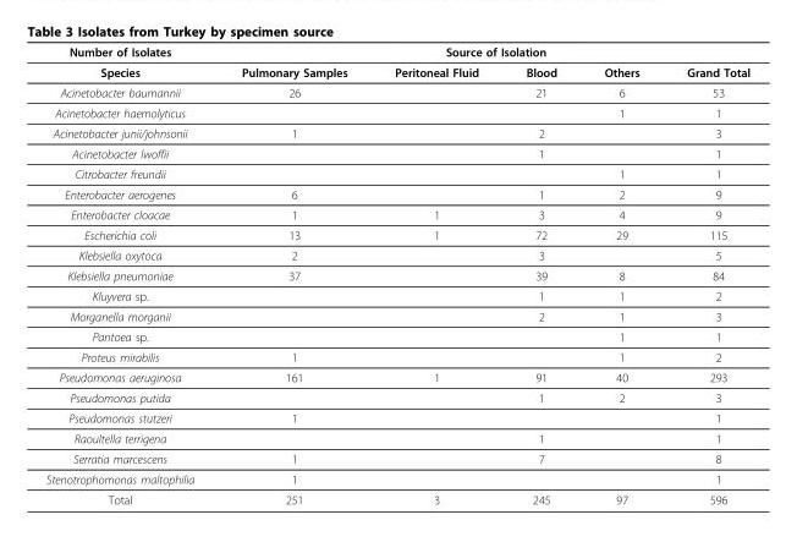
<table><thead><tr><td rowspan="2">Number of Isolates Species</td><td colspan="5">Source of Isolation</td></tr><tr><td>Pulmonary Samples</td><td>Peritoneal Fluid</td><td>Blood</td><td>Others</td><td>Grand Total</td></tr></thead><tbody><tr><td>Acinetobacter baumannii</td><td>26</td><td></td><td>21</td><td>6</td><td>53</td></tr><tr><td>Acinetobacter haemolyticus</td><td></td><td></td><td></td><td>1</td><td>1</td></tr><tr><td>Acinetobacter junii/johnsonii</td><td>1</td><td></td><td>2</td><td></td><td>3</td></tr><tr><td>Acinetobacter lwoffii</td><td></td><td></td><td>1</td><td></td><td>1</td></tr><tr><td>Citrobacter freundii</td><td></td><td></td><td></td><td>1</td><td>1</td></tr><tr><td>Enterobacter aerogenes</td><td>6</td><td></td><td>1</td><td>2</td><td>9</td></tr><tr><td>Enterobacter cloacae</td><td>1</td><td>1</td><td>3</td><td>4</td><td>9</td></tr><tr><td>Escherichia coli</td><td>13</td><td>1</td><td>72</td><td>29</td><td>115</td></tr><tr><td>Klebsiella oxytoca</td><td>2</td><td></td><td>3</td><td></td><td>5</td></tr><tr><td>Klebsiella pneumoniae</td><td>37</td><td></td><td>39</td><td>8</td><td>84</td></tr><tr><td>Kluyvera sp.</td><td></td><td></td><td>1</td><td>1</td><td>2</td></tr><tr><td>Morganella morganii</td><td></td><td></td><td>2</td><td>1</td><td>3</td></tr><tr><td>Pantoea sp.</td><td></td><td></td><td></td><td>1</td><td>1</td></tr><tr><td>Proteus mirabilis</td><td>1</td><td></td><td></td><td>1</td><td>2</td></tr><tr><td>Pseudomonas aeruginosa</td><td>161</td><td>1</td><td>91</td><td>40</td><td>293</td></tr><tr><td>Pseudomonas putida</td><td></td><td></td><td>1</td><td>2</td><td>3</td></tr><tr><td>Pseudomonas stutzeri</td><td>1</td><td></td><td></td><td></td><td>1</td></tr><tr><td>Raoultella terrigena</td><td></td><td></td><td>1</td><td></td><td>1</td></tr><tr><td>Serratia marcescens</td><td>1</td><td></td><td>7</td><td></td><td>8</td></tr><tr><td>Stenotrophomonas maltophilia</td><td>1</td><td></td><td></td><td></td><td>1</td></tr><tr><td>Total</td><td>251</td><td>3</td><td>245</td><td>97</td><td>596</td></tr></tbody></table>